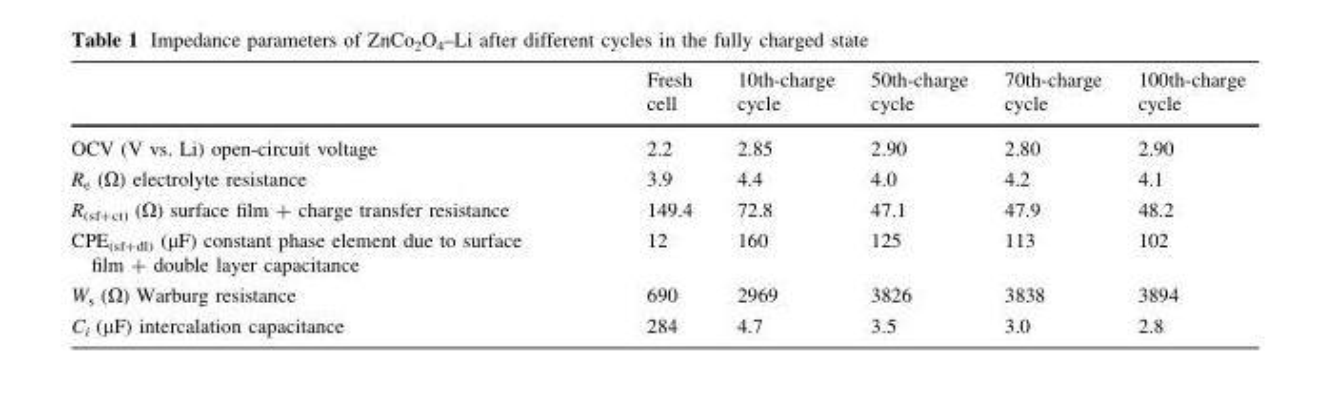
<table><thead><tr><td></td><td>Fresh cell</td><td>10th-charge cycle</td><td>50th-charge cycle</td><td>70th-charge cycle</td><td>100th-charge cycle</td></tr></thead><tbody><tr><td>OCV (V vs. Li) open-circuit voltage</td><td>2.2</td><td>2.85</td><td>2.90</td><td>2.80</td><td>2.90</td></tr><tr><td>R<sub>e</sub> (Ω) electrolyte resistance</td><td>3.9</td><td>4.4</td><td>4.0</td><td>4.2</td><td>4.1</td></tr><tr><td>R<sub>(sf+ct)</sub> (Ω) surface film + charge transfer resistance</td><td>149.4</td><td>72.8</td><td>47.1</td><td>47.9</td><td>48.2</td></tr><tr><td>CPE<sub>(sf+dl)</sub> (µF) constant phase element due to surface film + double layer capacitance</td><td>12</td><td>160</td><td>125</td><td>113</td><td>102</td></tr><tr><td>W<sub>s</sub> (Ω) Warburg resistance</td><td>690</td><td>2969</td><td>3826</td><td>3838</td><td>3894</td></tr><tr><td>C<sub>i</sub> (µF) intercalation capacitance</td><td>284</td><td>4.7</td><td>3.5</td><td>3.0</td><td>2.8</td></tr></tbody></table>